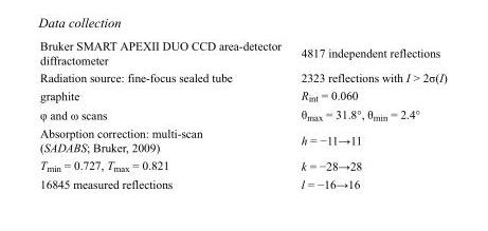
<table><tbody><tr><td>Bruker SMART APEXII DUO CCD area-detector diffractometer</td><td>4817 independent reflections</td></tr><tr><td>Radiation source: fine-focus sealed tube</td><td>2323 reflections with I &gt; 2σ(I)</td></tr><tr><td>graphite</td><td>R<sub>int</sub> = 0.060</td></tr><tr><td>φ and ω scans</td><td>θ<sub>max</sub> = 31.8°, θ<sub>min</sub> = 2.4°</td></tr><tr><td>Absorption correction: multi-scan (SADABS; Bruker, 2009)</td><td>h = −11→11</td></tr><tr><td>T<sub>min</sub> = 0.727, T<sub>max</sub> = 0.821</td><td>k = −28→28</td></tr><tr><td>16845 measured reflections</td><td>l = −16→16</td></tr></tbody></table>